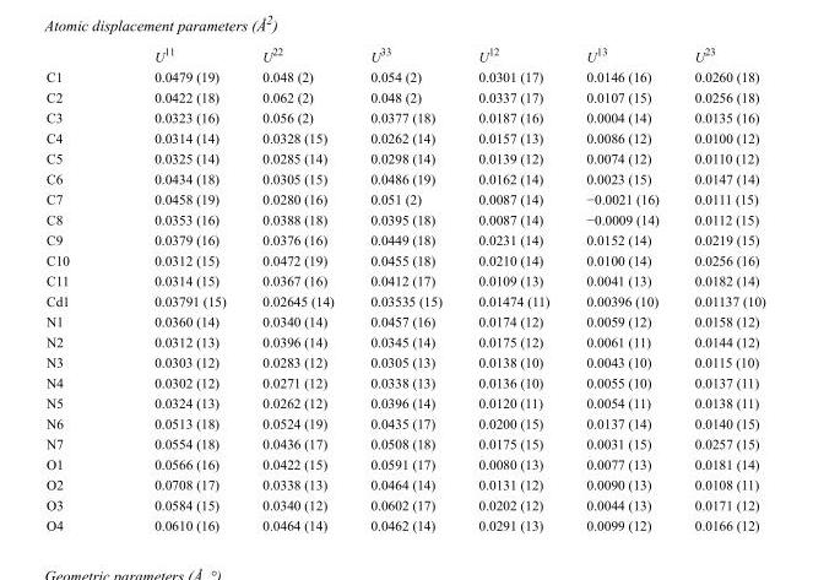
<table><thead><tr><td></td><td>U<sup>11</sup></td><td>U<sup>22</sup></td><td>U<sup>33</sup></td><td>U<sup>12</sup></td><td>U<sup>13</sup></td><td>U<sup>23</sup></td></tr></thead><tbody><tr><td>C1</td><td>0.0479 (19)</td><td>0.048 (2)</td><td>0.054 (2)</td><td>0.0301 (17)</td><td>0.0146 (16)</td><td>0.0260 (18)</td></tr><tr><td>C2</td><td>0.0422 (18)</td><td>0.062 (2)</td><td>0.048 (2)</td><td>0.0337 (17)</td><td>0.0107 (15)</td><td>0.0256 (18)</td></tr><tr><td>C3</td><td>0.0323 (16)</td><td>0.056 (2)</td><td>0.0377 (18)</td><td>0.0187 (16)</td><td>0.0004 (14)</td><td>0.0135 (16)</td></tr><tr><td>C4</td><td>0.0314 (14)</td><td>0.0328 (15)</td><td>0.0262 (14)</td><td>0.0157 (13)</td><td>0.0086 (12)</td><td>0.0100 (12)</td></tr><tr><td>C5</td><td>0.0325 (14)</td><td>0.0285 (14)</td><td>0.0298 (14)</td><td>0.0139 (12)</td><td>0.0074 (12)</td><td>0.0110 (12)</td></tr><tr><td>C6</td><td>0.0434 (18)</td><td>0.0305 (15)</td><td>0.0486 (19)</td><td>0.0162 (14)</td><td>0.0023 (15)</td><td>0.0147 (14)</td></tr><tr><td>C7</td><td>0.0458 (19)</td><td>0.0280 (16)</td><td>0.051 (2)</td><td>0.0087 (14)</td><td>−0.0021 (16)</td><td>0.0111 (15)</td></tr><tr><td>C8</td><td>0.0353 (16)</td><td>0.0388 (18)</td><td>0.0395 (18)</td><td>0.0087 (14)</td><td>−0.0009 (14)</td><td>0.0112 (15)</td></tr><tr><td>C9</td><td>0.0379 (16)</td><td>0.0376 (16)</td><td>0.0449 (18)</td><td>0.0231 (14)</td><td>0.0152 (14)</td><td>0.0219 (15)</td></tr><tr><td>C10</td><td>0.0312 (15)</td><td>0.0472 (19)</td><td>0.0455 (18)</td><td>0.0210 (14)</td><td>0.0100 (14)</td><td>0.0256 (16)</td></tr><tr><td>C11</td><td>0.0314 (15)</td><td>0.0367 (16)</td><td>0.0412 (17)</td><td>0.0109 (13)</td><td>0.0041 (13)</td><td>0.0182 (14)</td></tr><tr><td>Cd1</td><td>0.03791 (15)</td><td>0.02645 (14)</td><td>0.03535 (15)</td><td>0.01474 (11)</td><td>0.00396 (10)</td><td>0.01137 (10)</td></tr><tr><td>N1</td><td>0.0360 (14)</td><td>0.0340 (14)</td><td>0.0457 (16)</td><td>0.0174 (12)</td><td>0.0059 (12)</td><td>0.0158 (12)</td></tr><tr><td>N2</td><td>0.0312 (13)</td><td>0.0396 (14)</td><td>0.0345 (14)</td><td>0.0175 (12)</td><td>0.0061 (11)</td><td>0.0144 (12)</td></tr><tr><td>N3</td><td>0.0303 (12)</td><td>0.0283 (12)</td><td>0.0305 (13)</td><td>0.0138 (10)</td><td>0.0043 (10)</td><td>0.0115 (10)</td></tr><tr><td>N4</td><td>0.0302 (12)</td><td>0.0271 (12)</td><td>0.0338 (13)</td><td>0.0136 (10)</td><td>0.0055 (10)</td><td>0.0137 (11)</td></tr><tr><td>N5</td><td>0.0324 (13)</td><td>0.0262 (12)</td><td>0.0396 (14)</td><td>0.0120 (11)</td><td>0.0054 (11)</td><td>0.0138 (11)</td></tr><tr><td>N6</td><td>0.0513 (18)</td><td>0.0524 (19)</td><td>0.0435 (17)</td><td>0.0200 (15)</td><td>0.0137 (14)</td><td>0.0140 (15)</td></tr><tr><td>N7</td><td>0.0554 (18)</td><td>0.0436 (17)</td><td>0.0508 (18)</td><td>0.0175 (15)</td><td>0.0031 (15)</td><td>0.0257 (15)</td></tr><tr><td>O1</td><td>0.0566 (16)</td><td>0.0422 (15)</td><td>0.0591 (17)</td><td>0.0080 (13)</td><td>0.0077 (13)</td><td>0.0181 (14)</td></tr><tr><td>O2</td><td>0.0708 (17)</td><td>0.0338 (13)</td><td>0.0464 (14)</td><td>0.0131 (12)</td><td>0.0090 (13)</td><td>0.0108 (11)</td></tr><tr><td>O3</td><td>0.0584 (15)</td><td>0.0340 (12)</td><td>0.0602 (17)</td><td>0.0202 (12)</td><td>0.0044 (13)</td><td>0.0171 (12)</td></tr><tr><td>O4</td><td>0.0610 (16)</td><td>0.0464 (14)</td><td>0.0462 (14)</td><td>0.0291 (13)</td><td>0.0099 (12)</td><td>0.0166 (12)</td></tr></tbody></table>